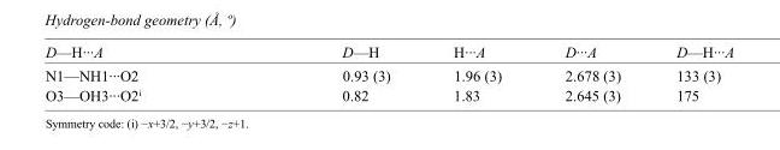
<table><tbody><tr><td>D—H···A</td><td>D—H</td><td>H···A</td><td>D···A</td><td>D—H···A</td></tr><tr><td>N1—NH1···O2</td><td>0.93 (3)</td><td>1.96 (3)</td><td>2.678 (3)</td><td>133 (3)</td></tr><tr><td>O3—OH3···O2<sup>i</sup></td><td>0.82</td><td>1.83</td><td>2.645 (3)</td><td>175</td></tr></tbody></table>